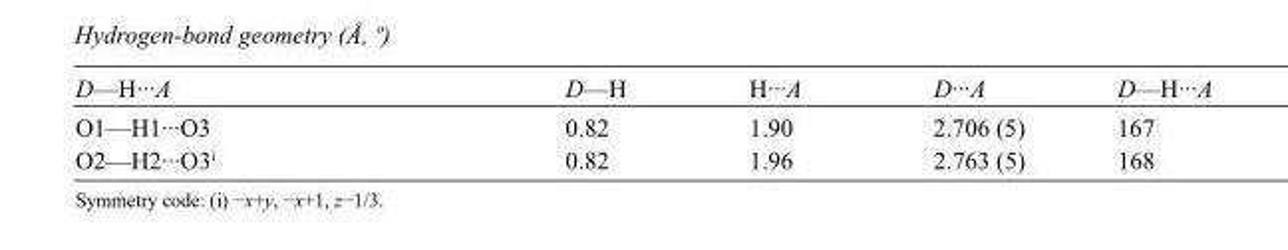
<table><tbody><tr><td>D—H···A</td><td>D—H</td><td>H···A</td><td>D···A</td><td>D—H···A</td></tr><tr><td>O1—H1···O3</td><td>0.82</td><td>1.90</td><td>2.706 (5)</td><td>167</td></tr><tr><td>O2—H2···O3<sup>i</sup></td><td>0.82</td><td>1.96</td><td>2.763 (5)</td><td>168</td></tr></tbody></table>